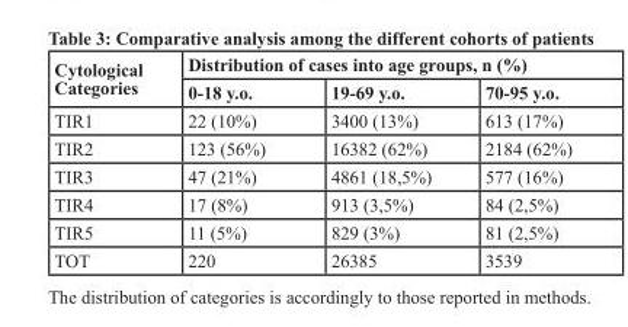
<table><thead><tr><td rowspan="2">Cytological Categories</td><td colspan="3">Distribution of cases into age groups, n (%)</td></tr><tr><td>0-18 y.o.</td><td>19-69 y.o.</td><td>70-95 y.o.</td></tr></thead><tbody><tr><td>TIR1</td><td>22 (10%)</td><td>3400 (13%)</td><td>613 (17%)</td></tr><tr><td>TIR2</td><td>123 (56%)</td><td>16382 (62%)</td><td>2184 (62%)</td></tr><tr><td>TIR3</td><td>47 (21%)</td><td>4861 (18,5%)</td><td>577 (16%)</td></tr><tr><td>TIR4</td><td>17 (8%)</td><td>913 (3,5%)</td><td>84 (2,5%)</td></tr><tr><td>TIR5</td><td>11 (5%)</td><td>829 (3%)</td><td>81 (2,5%)</td></tr><tr><td>TOT</td><td>220</td><td>26385</td><td>3539</td></tr></tbody></table>